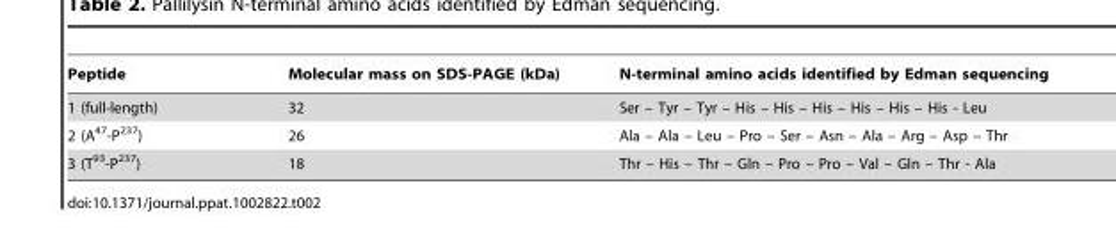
<table><thead><tr><td>Peptide</td><td>Molecular mass on SDS-PAGE (kDa)</td><td>N-terminal amino acids identified by Edman sequencing</td></tr></thead><tbody><tr><td>1 (full-length)</td><td>32</td><td>Ser – Tyr – Tyr – His – His – His – His – His – His - Leu</td></tr><tr><td>2 (A<sup>47</sup>-P<sup>237</sup>)</td><td>26</td><td>Ala – Ala – Leu – Pro – Ser – Asn – Ala – Arg – Asp – Thr</td></tr><tr><td>3 (T<sup>93</sup>-P<sup>237</sup>)</td><td>18</td><td>Thr – His – Thr – Gln – Pro – Pro – Val – Gln – Thr - Ala</td></tr></tbody></table>